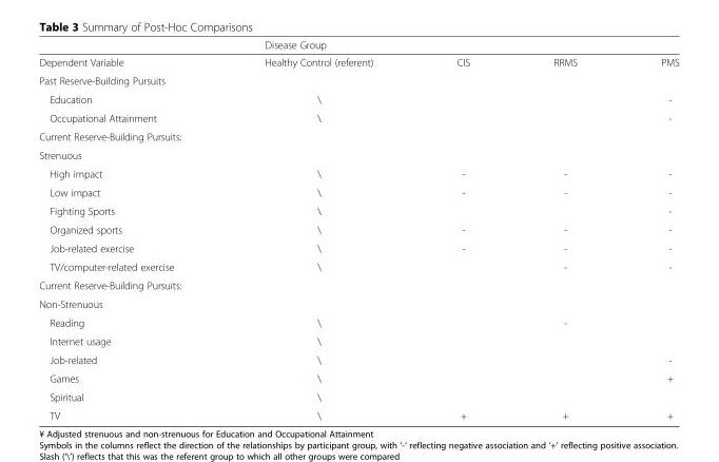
<table><thead><tr><td rowspan="2">Dependent Variable</td><td colspan="4">Disease Group</td></tr><tr><td>Healthy Control (referent)</td><td>CIS</td><td>RRMS</td><td>PMS</td></tr></thead><tbody><tr><td colspan="5">Past Reserve-Building Pursuits</td></tr><tr><td>Education</td><td>\</td><td></td><td></td><td>-</td></tr><tr><td>Occupational Attainment</td><td>\</td><td></td><td></td><td>-</td></tr><tr><td>Current Reserve-Building Pursuits:</td><td rowspan="2"></td><td rowspan="2"></td><td rowspan="2"></td><td rowspan="2"></td></tr><tr><td>Strenuous</td></tr><tr><td>High impact</td><td>\</td><td>-</td><td>-</td><td>-</td></tr><tr><td>Low impact</td><td>\</td><td>-</td><td>-</td><td>-</td></tr><tr><td>Fighting Sports</td><td>\</td><td></td><td></td><td>-</td></tr><tr><td>Organized sports</td><td>\</td><td>-</td><td>-</td><td>-</td></tr><tr><td>Job-related exercise</td><td>\</td><td>-</td><td>-</td><td>-</td></tr><tr><td>TV/computer-related exercise</td><td>\</td><td></td><td>-</td><td>-</td></tr><tr><td>Current Reserve-Building Pursuits:</td><td rowspan="2"></td><td rowspan="2"></td><td rowspan="2"></td><td rowspan="2"></td></tr><tr><td>Non-Strenuous</td></tr><tr><td>Reading</td><td>\</td><td></td><td>-</td><td></td></tr><tr><td>Internet usage</td><td>\</td><td></td><td></td><td></td></tr><tr><td>Job-related</td><td>\</td><td></td><td></td><td>-</td></tr><tr><td>Games</td><td>\</td><td></td><td></td><td>+</td></tr><tr><td>Spiritual</td><td>\</td><td></td><td></td><td></td></tr><tr><td>TV</td><td>\</td><td>+</td><td>+</td><td>+</td></tr></tbody></table>